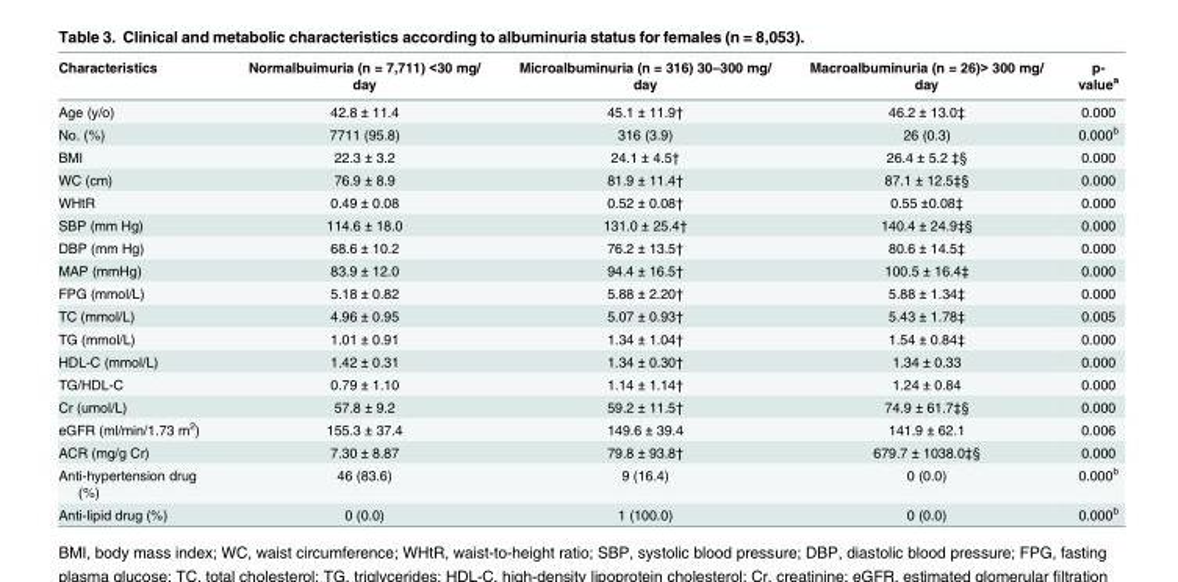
<table><thead><tr><td>Characteristics</td><td>Normalbuimuria (n = 7,711) &lt;30 mg/ day</td><td>Microalbuminuria (n = 316) 30–300 mg/ day</td><td>Macroalbuminuria (n = 26)&gt; 300 mg/ day</td><td>p- value<sup>a</sup></td></tr></thead><tbody><tr><td>Age (y/o)</td><td>42.8 ± 11.4</td><td>45.1 ± 11.9†</td><td>46.2 ± 13.0‡</td><td>0.000</td></tr><tr><td>No. (%)</td><td>7711 (95.8)</td><td>316 (3.9)</td><td>26 (0.3)</td><td>0.000<sup>b</sup></td></tr><tr><td>BMI</td><td>22.3 ± 3.2</td><td>24.1 ± 4.5†</td><td>26.4 ± 5.2 ‡§</td><td>0.000</td></tr><tr><td>WC (cm)</td><td>76.9 ± 8.9</td><td>81.9 ± 11.4†</td><td>87.1 ± 12.5‡§</td><td>0.000</td></tr><tr><td>WHtR</td><td>0.49 ± 0.08</td><td>0.52 ± 0.08†</td><td>0.55 ±0.08‡</td><td>0.000</td></tr><tr><td>SBP (mm Hg)</td><td>114.6 ± 18.0</td><td>131.0 ± 25.4†</td><td>140.4 ± 24.9‡§</td><td>0.000</td></tr><tr><td>DBP (mm Hg)</td><td>68.6 ± 10.2</td><td>76.2 ± 13.5†</td><td>80.6 ± 14.5‡</td><td>0.000</td></tr><tr><td>MAP (mmHg)</td><td>83.9 ± 12.0</td><td>94.4 ± 16.5†</td><td>100.5 ± 16.4‡</td><td>0.000</td></tr><tr><td>FPG (mmol/L)</td><td>5.18 ± 0.82</td><td>5.88 ± 2.20†</td><td>5.88 ± 1.34‡</td><td>0.000</td></tr><tr><td>TC (mmol/L)</td><td>4.96 ± 0.95</td><td>5.07 ± 0.93†</td><td>5.43 ± 1.78‡</td><td>0.005</td></tr><tr><td>TG (mmol/L)</td><td>1.01 ± 0.91</td><td>1.34 ± 1.04†</td><td>1.54 ± 0.84‡</td><td>0.000</td></tr><tr><td>HDL-C (mmol/L)</td><td>1.42 ± 0.31</td><td>1.34 ± 0.30†</td><td>1.34 ± 0.33</td><td>0.000</td></tr><tr><td>TG/HDL-C</td><td>0.79 ± 1.10</td><td>1.14 ± 1.14†</td><td>1.24 ± 0.84</td><td>0.000</td></tr><tr><td>Cr (umol/L)</td><td>57.8 ± 9.2</td><td>59.2 ± 11.5†</td><td>74.9 ± 61.7‡§</td><td>0.000</td></tr><tr><td>eGFR (ml/min/1.73 m<sup>2</sup>)</td><td>155.3 ± 37.4</td><td>149.6 ± 39.4</td><td>141.9 ± 62.1</td><td>0.006</td></tr><tr><td>ACR (mg/g Cr)</td><td>7.30 ± 8.87</td><td>79.8 ± 93.8†</td><td>679.7 ± 1038.0‡§</td><td>0.000</td></tr><tr><td>Anti-hypertension drug (%)</td><td>46 (83.6)</td><td>9 (16.4)</td><td>0 (0.0)</td><td>0.000<sup>b</sup></td></tr><tr><td>Anti-lipid drug (%)</td><td>0 (0.0)</td><td>1 (100.0)</td><td>0 (0.0)</td><td>0.000<sup>b</sup></td></tr></tbody></table>